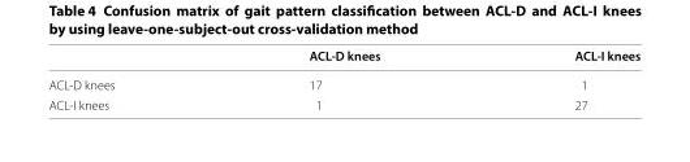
<table><thead><tr><td></td><td>ACL-D knees</td><td>ACL-I knees</td></tr></thead><tbody><tr><td>ACL-D knees</td><td>17</td><td>1</td></tr><tr><td>ACL-I knees</td><td>1</td><td>27</td></tr></tbody></table>